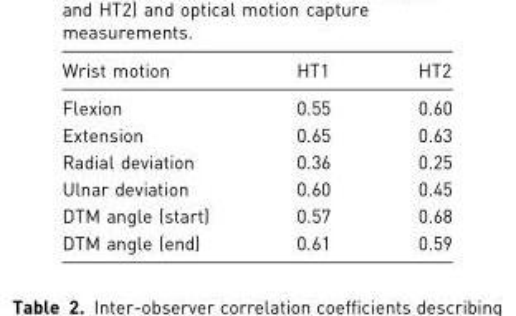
<table><thead><tr><td>Wrist motion</td><td>HT1</td><td>HT2</td></tr></thead><tbody><tr><td>Flexion</td><td>0.55</td><td>0.60</td></tr><tr><td>Extension</td><td>0.65</td><td>0.63</td></tr><tr><td>Radial deviation</td><td>0.36</td><td>0.25</td></tr><tr><td>Ulnar deviation</td><td>0.60</td><td>0.45</td></tr><tr><td>DTM angle (start)</td><td>0.57</td><td>0.68</td></tr><tr><td>DTM angle (end)</td><td>0.61</td><td>0.59</td></tr></tbody></table>